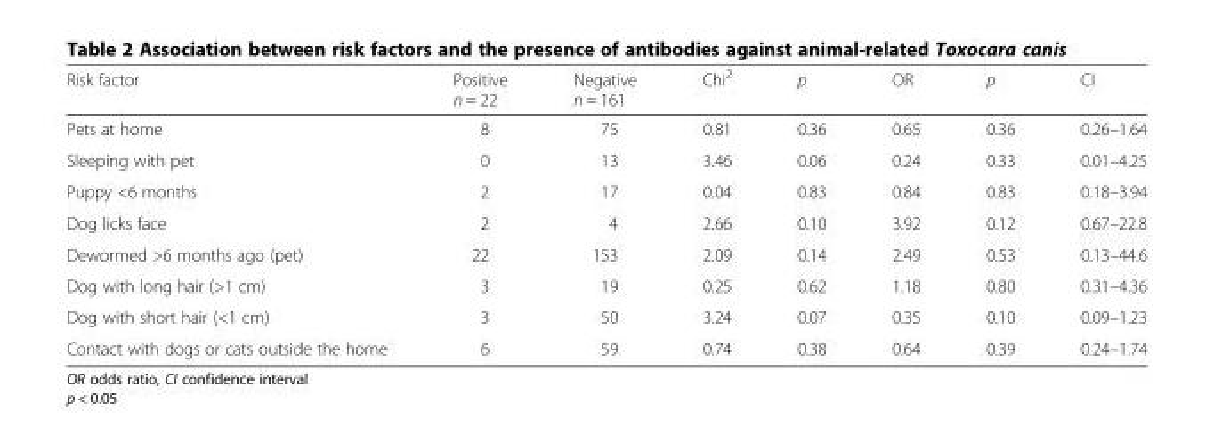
<table><thead><tr><td>Risk factor</td><td>Positive n = 22</td><td>Negative n = 161</td><td>Chi<sup>2</sup></td><td>p</td><td>OR</td><td>p</td><td>CI</td></tr></thead><tbody><tr><td>Pets at home</td><td>8</td><td>75</td><td>0.81</td><td>0.36</td><td>0.65</td><td>0.36</td><td>0.26–1.64</td></tr><tr><td>Sleeping with pet</td><td>0</td><td>13</td><td>3.46</td><td>0.06</td><td>0.24</td><td>0.33</td><td>0.01–4.25</td></tr><tr><td>Puppy &lt;6 months</td><td>2</td><td>17</td><td>0.04</td><td>0.83</td><td>0.84</td><td>0.83</td><td>0.18–3.94</td></tr><tr><td>Dog licks face</td><td>2</td><td>4</td><td>2.66</td><td>0.10</td><td>3.92</td><td>0.12</td><td>0.67–22.8</td></tr><tr><td>Dewormed &gt;6 months ago (pet)</td><td>22</td><td>153</td><td>2.09</td><td>0.14</td><td>2.49</td><td>0.53</td><td>0.13–44.6</td></tr><tr><td>Dog with long hair (&gt;1 cm)</td><td>3</td><td>19</td><td>0.25</td><td>0.62</td><td>1.18</td><td>0.80</td><td>0.31–4.36</td></tr><tr><td>Dog with short hair (&lt;1 cm)</td><td>3</td><td>50</td><td>3.24</td><td>0.07</td><td>0.35</td><td>0.10</td><td>0.09–1.23</td></tr><tr><td>Contact with dogs or cats outside the home</td><td>6</td><td>59</td><td>0.74</td><td>0.38</td><td>0.64</td><td>0.39</td><td>0.24–1.74</td></tr></tbody></table>